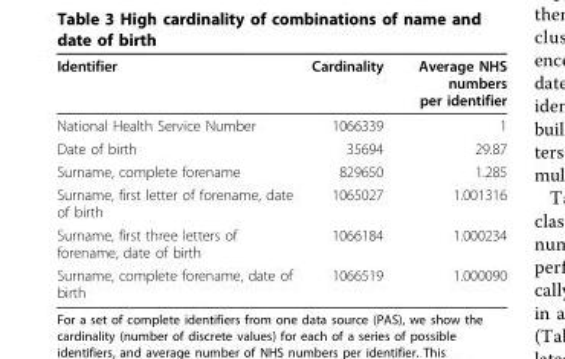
<table><thead><tr><td>Identifier</td><td>Cardinality</td><td>Average NHS numbers per identifier</td></tr></thead><tbody><tr><td>National Health Service Number</td><td>1066339</td><td>1</td></tr><tr><td>Date of birth</td><td>35694</td><td>29.87</td></tr><tr><td>Surname, complete forename</td><td>829650</td><td>1.285</td></tr><tr><td>Surname, first letter of forename, date of birth</td><td>1065027</td><td>1.001316</td></tr><tr><td>Surname, first three letters of forename, date of birth</td><td>1066184</td><td>1.000234</td></tr><tr><td>Surname, complete forename, date of birth</td><td>1066519</td><td>1.000090</td></tr></tbody></table>